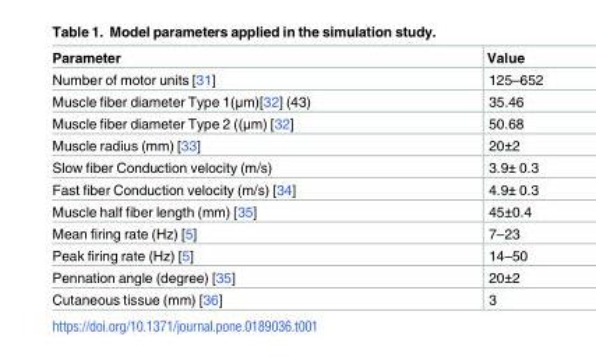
<table><thead><tr><td>Parameter</td><td>Value</td></tr></thead><tbody><tr><td>Number of motor units [31]</td><td>125–652</td></tr><tr><td>Muscle fiber diameter Type 1(μm)[32] (43)</td><td>35.46</td></tr><tr><td>Muscle fiber diameter Type 2 ((μm) [32]</td><td>50.68</td></tr><tr><td>Muscle radius (mm) [33]</td><td>20±2</td></tr><tr><td>Slow fiber Conduction velocity (m/s)</td><td>3.9± 0.3</td></tr><tr><td>Fast fiber Conduction velocity (m/s) [34]</td><td>4.9± 0.3</td></tr><tr><td>Muscle half fiber length (mm) [35]</td><td>45±0.4</td></tr><tr><td>Mean firing rate (Hz) [5]</td><td>7–23</td></tr><tr><td>Peak firing rate (Hz) [5]</td><td>14–50</td></tr><tr><td>Pennation angle (degree) [35]</td><td>20±2</td></tr><tr><td>Cutaneous tissue (mm) [36]</td><td>3</td></tr></tbody></table>